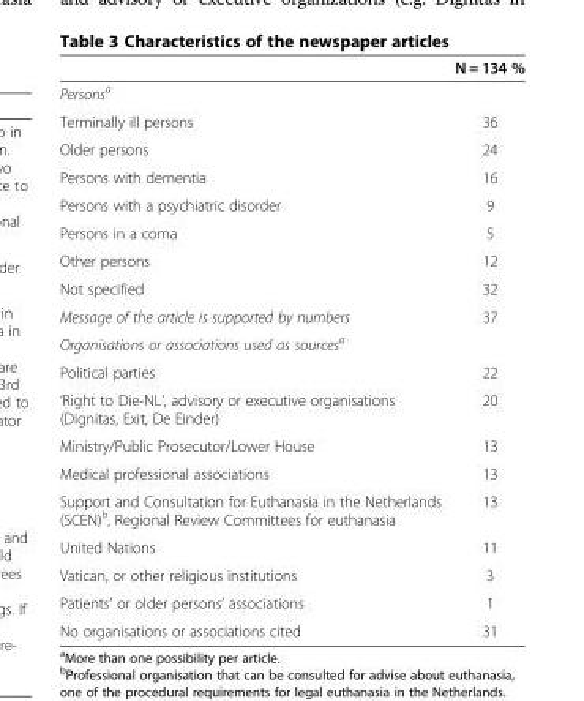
<table><thead><tr><td></td><td>N = 134 %</td></tr></thead><tbody><tr><td colspan="2">Persons<sup>a</sup></td></tr><tr><td>Terminally ill persons</td><td>36</td></tr><tr><td>Older persons</td><td>24</td></tr><tr><td>Persons with dementia</td><td>16</td></tr><tr><td>Persons with a psychiatric disorder</td><td>9</td></tr><tr><td>Persons in a coma</td><td>5</td></tr><tr><td>Other persons</td><td>12</td></tr><tr><td>Not specified</td><td>32</td></tr><tr><td>Message of the article is supported by numbers</td><td>37</td></tr><tr><td colspan="2">Organisations or associations used as sources<sup>a</sup></td></tr><tr><td>Political parties</td><td>22</td></tr><tr><td>‘Right to Die-NL’, advisory or executive organisations (Dignitas, Exit, De Einder)</td><td>20</td></tr><tr><td>Ministry/Public Prosecutor/Lower House</td><td>13</td></tr><tr><td>Medical professional associations</td><td>13</td></tr><tr><td>Support and Consultation for Euthanasia in the Netherlands (SCEN)<sup>b</sup>, Regional Review Committees for euthanasia</td><td>13</td></tr><tr><td>United Nations</td><td>11</td></tr><tr><td>Vatican, or other religious institutions</td><td>3</td></tr><tr><td>Patients’ or older persons’ associations</td><td>1</td></tr><tr><td>No organisations or associations cited</td><td>31</td></tr></tbody></table>